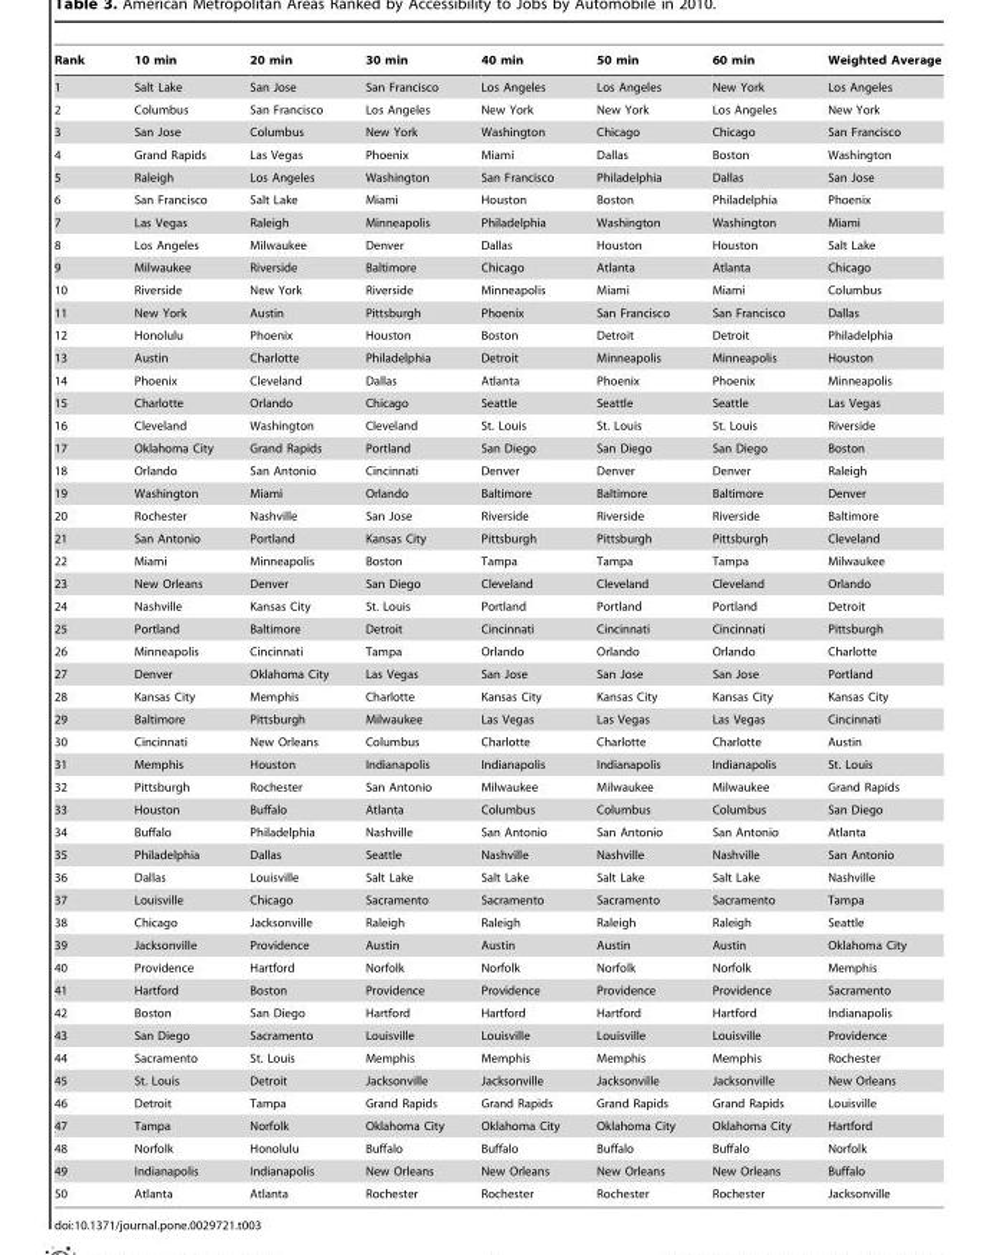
<table><thead><tr><td>Rank</td><td>10 min</td><td>20 min</td><td>30 min</td><td>40 min</td><td>50 min</td><td>60 min</td><td>Weighted Average</td></tr></thead><tbody><tr><td>1</td><td>Salt Lake</td><td>San Jose</td><td>San Francisco</td><td>Los Angeles</td><td>Los Angeles</td><td>New York</td><td>Los Angeles</td></tr><tr><td>2</td><td>Columbus</td><td>San Francisco</td><td>Los Angeles</td><td>New York</td><td>New York</td><td>Los Angeles</td><td>New York</td></tr><tr><td>3</td><td>San Jose</td><td>Columbus</td><td>New York</td><td>Washington</td><td>Chicago</td><td>Chicago</td><td>San Francisco</td></tr><tr><td>4</td><td>Grand Rapids</td><td>Las Vegas</td><td>Phoenix</td><td>Miami</td><td>Dallas</td><td>Boston</td><td>Washington</td></tr><tr><td>5</td><td>Raleigh</td><td>Los Angeles</td><td>Washington</td><td>San Francisco</td><td>Philadelphia</td><td>Dallas</td><td>San Jose</td></tr><tr><td>6</td><td>San Francisco</td><td>Salt Lake</td><td>Miami</td><td>Houston</td><td>Boston</td><td>Philadelphia</td><td>Phoenix</td></tr><tr><td>7</td><td>Las Vegas</td><td>Raleigh</td><td>Minneapolis</td><td>Philadelphia</td><td>Washington</td><td>Washington</td><td>Miami</td></tr><tr><td>8</td><td>Los Angeles</td><td>Milwaukee</td><td>Denver</td><td>Dallas</td><td>Houston</td><td>Houston</td><td>Salt Lake</td></tr><tr><td>9</td><td>Milwaukee</td><td>Riverside</td><td>Baltimore</td><td>Chicago</td><td>Atlanta</td><td>Atlanta</td><td>Chicago</td></tr><tr><td>10</td><td>Riverside</td><td>New York</td><td>Riverside</td><td>Minneapolis</td><td>Miami</td><td>Miami</td><td>Columbus</td></tr><tr><td>11</td><td>New York</td><td>Austin</td><td>Pittsburgh</td><td>Phoenix</td><td>San Francisco</td><td>San Francisco</td><td>Dallas</td></tr><tr><td>12</td><td>Honolulu</td><td>Phoenix</td><td>Houston</td><td>Boston</td><td>Detroit</td><td>Detroit</td><td>Philadelphia</td></tr><tr><td>13</td><td>Austin</td><td>Charlotte</td><td>Philadelphia</td><td>Detroit</td><td>Minneapolis</td><td>Minneapolis</td><td>Houston</td></tr><tr><td>14</td><td>Phoenix</td><td>Cleveland</td><td>Dallas</td><td>Atlanta</td><td>Phoenix</td><td>Phoenix</td><td>Minneapolis</td></tr><tr><td>15</td><td>Charlotte</td><td>Orlando</td><td>Chicago</td><td>Seattle</td><td>Seattle</td><td>Seattle</td><td>Las Vegas</td></tr><tr><td>16</td><td>Cleveland</td><td>Washington</td><td>Cleveland</td><td>St. Louis</td><td>St. Louis</td><td>St. Louis</td><td>Riverside</td></tr><tr><td>17</td><td>Oklahoma City</td><td>Grand Rapids</td><td>Portland</td><td>San Diego</td><td>San Diego</td><td>San Diego</td><td>Boston</td></tr><tr><td>18</td><td>Orlando</td><td>San Antonio</td><td>Cincinnati</td><td>Denver</td><td>Denver</td><td>Denver</td><td>Raleigh</td></tr><tr><td>19</td><td>Washington</td><td>Miami</td><td>Orlando</td><td>Baltimore</td><td>Baltimore</td><td>Baltimore</td><td>Denver</td></tr><tr><td>20</td><td>Rochester</td><td>Nashville</td><td>San Jose</td><td>Riverside</td><td>Riverside</td><td>Riverside</td><td>Baltimore</td></tr><tr><td>21</td><td>San Antonio</td><td>Portland</td><td>Kansas City</td><td>Pittsburgh</td><td>Pittsburgh</td><td>Pittsburgh</td><td>Cleveland</td></tr><tr><td>22</td><td>Miami</td><td>Minneapolis</td><td>Boston</td><td>Tampa</td><td>Tampa</td><td>Tampa</td><td>Milwaukee</td></tr><tr><td>23</td><td>New Orleans</td><td>Denver</td><td>San Diego</td><td>Cleveland</td><td>Cleveland</td><td>Cleveland</td><td>Orlando</td></tr><tr><td>24</td><td>Nashville</td><td>Kansas City</td><td>St. Louis</td><td>Portland</td><td>Portland</td><td>Portland</td><td>Detroit</td></tr><tr><td>25</td><td>Portland</td><td>Baltimore</td><td>Detroit</td><td>Cincinnati</td><td>Cincinnati</td><td>Cincinnati</td><td>Pittsburgh</td></tr><tr><td>26</td><td>Minneapolis</td><td>Cincinnati</td><td>Tampa</td><td>Orlando</td><td>Orlando</td><td>Orlando</td><td>Charlotte</td></tr><tr><td>27</td><td>Denver</td><td>Oklahoma City</td><td>Las Vegas</td><td>San Jose</td><td>San Jose</td><td>San Jose</td><td>Portland</td></tr><tr><td>28</td><td>Kansas City</td><td>Memphis</td><td>Charlotte</td><td>Kansas City</td><td>Kansas City</td><td>Kansas City</td><td>Kansas City</td></tr><tr><td>29</td><td>Baltimore</td><td>Pittsburgh</td><td>Milwaukee</td><td>Las Vegas</td><td>Las Vegas</td><td>Las Vegas</td><td>Cincinnati</td></tr><tr><td>30</td><td>Cincinnati</td><td>New Orleans</td><td>Columbus</td><td>Charlotte</td><td>Charlotte</td><td>Charlotte</td><td>Austin</td></tr><tr><td>31</td><td>Memphis</td><td>Houston</td><td>Indianapolis</td><td>Indianapolis</td><td>Indianapolis</td><td>Indianapolis</td><td>St. Louis</td></tr><tr><td>32</td><td>Pittsburgh</td><td>Rochester</td><td>San Antonio</td><td>Milwaukee</td><td>Milwaukee</td><td>Milwaukee</td><td>Grand Rapids</td></tr><tr><td>33</td><td>Houston</td><td>Buffalo</td><td>Atlanta</td><td>Columbus</td><td>Columbus</td><td>Columbus</td><td>San Diego</td></tr><tr><td>34</td><td>Buffalo</td><td>Philadelphia</td><td>Nashville</td><td>San Antonio</td><td>San Antonio</td><td>San Antonio</td><td>Atlanta</td></tr><tr><td>35</td><td>Philadelphia</td><td>Dallas</td><td>Seattle</td><td>Nashville</td><td>Nashville</td><td>Nashville</td><td>San Antonio</td></tr><tr><td>36</td><td>Dallas</td><td>Louisville</td><td>Salt Lake</td><td>Salt Lake</td><td>Salt Lake</td><td>Salt Lake</td><td>Nashville</td></tr><tr><td>37</td><td>Louisville</td><td>Chicago</td><td>Sacramento</td><td>Sacramento</td><td>Sacramento</td><td>Sacramento</td><td>Tampa</td></tr><tr><td>38</td><td>Chicago</td><td>Jacksonville</td><td>Raleigh</td><td>Raleigh</td><td>Raleigh</td><td>Raleigh</td><td>Seattle</td></tr><tr><td>39</td><td>Jacksonville</td><td>Providence</td><td>Austin</td><td>Austin</td><td>Austin</td><td>Austin</td><td>Oklahoma City</td></tr><tr><td>40</td><td>Providence</td><td>Hartford</td><td>Norfolk</td><td>Norfolk</td><td>Norfolk</td><td>Norfolk</td><td>Memphis</td></tr><tr><td>41</td><td>Hartford</td><td>Boston</td><td>Providence</td><td>Providence</td><td>Providence</td><td>Providence</td><td>Sacramento</td></tr><tr><td>42</td><td>Boston</td><td>San Diego</td><td>Hartford</td><td>Hartford</td><td>Hartford</td><td>Hartford</td><td>Indianapolis</td></tr><tr><td>43</td><td>San Diego</td><td>Sacramento</td><td>Louisville</td><td>Louisville</td><td>Louisville</td><td>Louisville</td><td>Providence</td></tr><tr><td>44</td><td>Sacramento</td><td>St. Louis</td><td>Memphis</td><td>Memphis</td><td>Memphis</td><td>Memphis</td><td>Rochester</td></tr><tr><td>45</td><td>St. Louis</td><td>Detroit</td><td>Jacksonville</td><td>Jacksonville</td><td>Jacksonville</td><td>Jacksonville</td><td>New Orleans</td></tr><tr><td>46</td><td>Detroit</td><td>Tampa</td><td>Grand Rapids</td><td>Grand Rapids</td><td>Grand Rapids</td><td>Grand Rapids</td><td>Louisville</td></tr><tr><td>47</td><td>Tampa</td><td>Norfolk</td><td>Oklahoma City</td><td>Oklahoma City</td><td>Oklahoma City</td><td>Oklahoma City</td><td>Hartford</td></tr><tr><td>48</td><td>Norfolk</td><td>Honolulu</td><td>Buffalo</td><td>Buffalo</td><td>Buffalo</td><td>Buffalo</td><td>Norfolk</td></tr><tr><td>49</td><td>Indianapolis</td><td>Indianapolis</td><td>New Orleans</td><td>New Orleans</td><td>New Orleans</td><td>New Orleans</td><td>Buffalo</td></tr><tr><td>50</td><td>Atlanta</td><td>Atlanta</td><td>Rochester</td><td>Rochester</td><td>Rochester</td><td>Rochester</td><td>Jacksonville</td></tr></tbody></table>